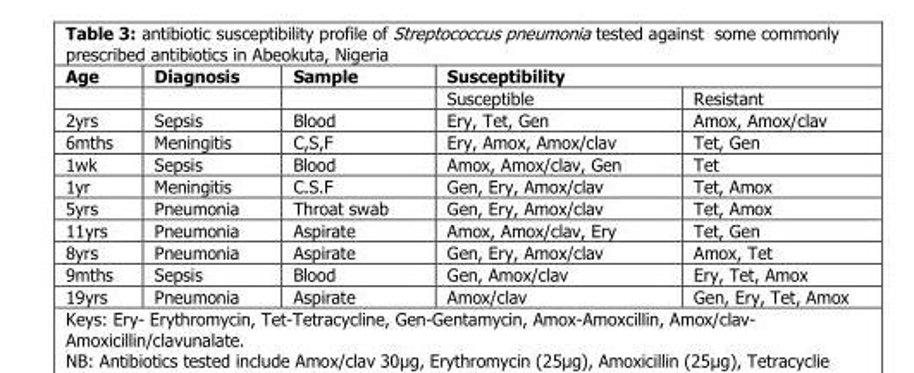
<table><thead><tr><td rowspan="2">Age</td><td rowspan="2">Diagnosis</td><td rowspan="2">Sample</td><td colspan="2">Susceptibility</td></tr><tr><td>Susceptible</td><td>Resistant</td></tr></thead><tbody><tr><td>2yrs</td><td>Sepsis</td><td>Blood</td><td>Ery, Tet, Gen</td><td>Amox, Amox/clav</td></tr><tr><td>6mths</td><td>Meningitis</td><td>C,S,F</td><td>Ery, Amox, Amox/clav</td><td>Tet, Gen</td></tr><tr><td>1wk</td><td>Sepsis</td><td>Blood</td><td>Amox, Amox/clav, Gen</td><td>Tet</td></tr><tr><td>1yr</td><td>Meningitis</td><td>C.S.F</td><td>Gen, Ery, Amox/clav</td><td>Tet, Amox</td></tr><tr><td>5yrs</td><td>Pneumonia</td><td>Throat swab</td><td>Gen, Ery, Amox/clav</td><td>Tet, Amox</td></tr><tr><td>11yrs</td><td>Pneumonia</td><td>Aspirate</td><td>Amox, Amox/clav, Ery</td><td>Tet, Gen</td></tr><tr><td>8yrs</td><td>Pneumonia</td><td>Aspirate</td><td>Gen, Ery, Amox/clav</td><td>Amox, Tet</td></tr><tr><td>9mths</td><td>Sepsis</td><td>Blood</td><td>Gen, Amox/clav</td><td>Ery, Tet, Amox</td></tr><tr><td>19yrs</td><td>Pneumonia</td><td>Aspirate</td><td>Amox/clav</td><td>Gen, Ery, Tet, Amox</td></tr></tbody></table>